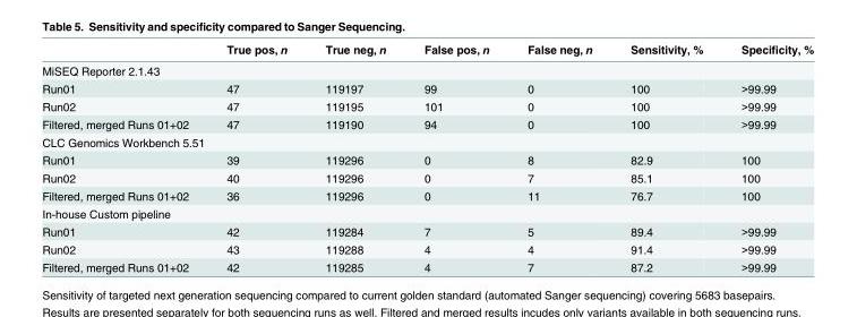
<table><thead><tr><td></td><td>True pos, n</td><td>True neg, n</td><td>False pos, n</td><td>False neg, n</td><td>Sensitivity, %</td><td>Specificity, %</td></tr></thead><tbody><tr><td colspan="7">MiSEQ Reporter 2.1.43</td></tr><tr><td>Run01</td><td>47</td><td>119197</td><td>99</td><td>0</td><td>100</td><td>&gt;99.99</td></tr><tr><td>Run02</td><td>47</td><td>119195</td><td>101</td><td>0</td><td>100</td><td>&gt;99.99</td></tr><tr><td>Filtered, merged Runs 01+02</td><td>47</td><td>119190</td><td>94</td><td>0</td><td>100</td><td>&gt;99.99</td></tr><tr><td colspan="7">CLC Genomics Workbench 5.51</td></tr><tr><td>Run01</td><td>39</td><td>119296</td><td>0</td><td>8</td><td>82.9</td><td>100</td></tr><tr><td>Run02</td><td>40</td><td>119296</td><td>0</td><td>7</td><td>85.1</td><td>100</td></tr><tr><td>Filtered, merged Runs 01+02</td><td>36</td><td>119296</td><td>0</td><td>11</td><td>76.7</td><td>100</td></tr><tr><td colspan="7">In-house Custom pipeline</td></tr><tr><td>Run01</td><td>42</td><td>119284</td><td>7</td><td>5</td><td>89.4</td><td>&gt;99.99</td></tr><tr><td>Run02</td><td>43</td><td>119288</td><td>4</td><td>4</td><td>91.4</td><td>&gt;99.99</td></tr><tr><td>Filtered, merged Runs 01+02</td><td>42</td><td>119285</td><td>4</td><td>7</td><td>87.2</td><td>&gt;99.99</td></tr></tbody></table>